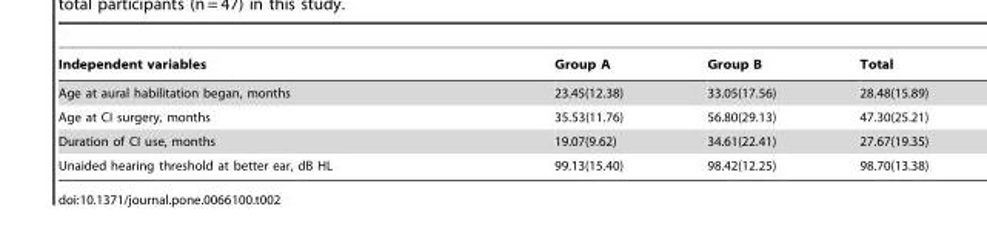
<table><thead><tr><td>Independent variables</td><td>Group A</td><td>Group B</td><td>Total</td></tr></thead><tbody><tr><td>Age at aural habilitation began, months</td><td>23.45(12.38)</td><td>33.05(17.56)</td><td>28.48(15.89)</td></tr><tr><td>Age at CI surgery, months</td><td>35.53(11.76)</td><td>56.80(29.13)</td><td>47.30(25.21)</td></tr><tr><td>Duration of CI use, months</td><td>19.07(9.62)</td><td>34.61(22.41)</td><td>27.67(19.35)</td></tr><tr><td>Unaided hearing threshold at better ear, dB HL</td><td>99.13(15.40)</td><td>98.42(12.25)</td><td>98.70(13.38)</td></tr></tbody></table>